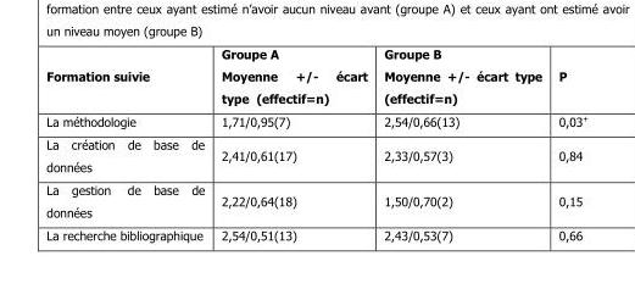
<table><thead><tr><td>Formation suivie</td><td>Groupe A Moyenne +/- écart type (effectif=n)</td><td>Groupe B Moyenne +/- écart type (effectif=n)</td><td>P</td></tr></thead><tbody><tr><td>La méthodologie</td><td>1,71/0,95(7)</td><td>2,54/0,66(13)</td><td>0,03<sup>+</sup></td></tr><tr><td>La création de base de données</td><td>2,41/0,61(17)</td><td>2,33/0,57(3)</td><td>0,84</td></tr><tr><td>La gestion de base de données</td><td>2,22/0,64(18)</td><td>1,50/0,70(2)</td><td>0,15</td></tr><tr><td>La recherche bibliographique</td><td>2,54/0,51(13)</td><td>2,43/0,53(7)</td><td>0,66</td></tr></tbody></table>